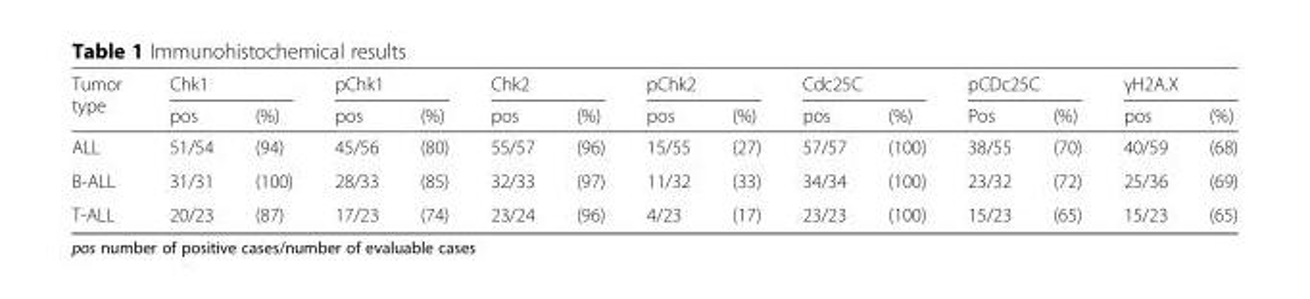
<table><thead><tr><td rowspan="2">Tumor type</td><td colspan="2">Chk1</td><td colspan="2">pChk1</td><td colspan="2">Chk2</td><td colspan="2">pChk2</td><td colspan="2">Cdc25C</td><td colspan="2">pCDc25C</td><td colspan="2">γH2A.X</td></tr><tr><td>pos</td><td>(%)</td><td>pos</td><td>(%)</td><td>pos</td><td>(%)</td><td>pos</td><td>(%)</td><td>pos</td><td>(%)</td><td>Pos</td><td>(%)</td><td>pos</td><td>(%)</td></tr></thead><tbody><tr><td>ALL</td><td>51/54</td><td>(94)</td><td>45/56</td><td>(80)</td><td>55/57</td><td>(96)</td><td>15/55</td><td>(27)</td><td>57/57</td><td>(100)</td><td>38/55</td><td>(70)</td><td>40/59</td><td>(68)</td></tr><tr><td>B-ALL</td><td>31/31</td><td>(100)</td><td>28/33</td><td>(85)</td><td>32/33</td><td>(97)</td><td>11/32</td><td>(33)</td><td>34/34</td><td>(100)</td><td>23/32</td><td>(72)</td><td>25/36</td><td>(69)</td></tr><tr><td>T-ALL</td><td>20/23</td><td>(87)</td><td>17/23</td><td>(74)</td><td>23/24</td><td>(96)</td><td>4/23</td><td>(17)</td><td>23/23</td><td>(100)</td><td>15/23</td><td>(65)</td><td>15/23</td><td>(65)</td></tr></tbody></table>